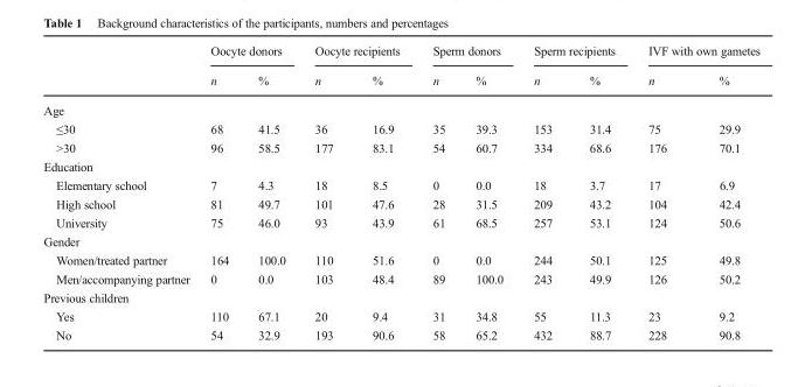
<table><thead><tr><td rowspan="2"></td><td colspan="2">Oocyte donors</td><td colspan="2">Oocyte recipients</td><td colspan="2">Sperm donors</td><td colspan="2">Sperm recipients</td><td colspan="2">IVF with own gametes</td></tr><tr><td>n</td><td>%</td><td>n</td><td>%</td><td>n</td><td>%</td><td>n</td><td>%</td><td>n</td><td>%</td></tr></thead><tbody><tr><td colspan="11">Age</td></tr><tr><td>≤30</td><td>68</td><td>41.5</td><td>36</td><td>16.9</td><td>35</td><td>39.3</td><td>153</td><td>31.4</td><td>75</td><td>29.9</td></tr><tr><td>&gt;30</td><td>96</td><td>58.5</td><td>177</td><td>83.1</td><td>54</td><td>60.7</td><td>334</td><td>68.6</td><td>176</td><td>70.1</td></tr><tr><td colspan="11">Education</td></tr><tr><td>Elementary school</td><td>7</td><td>4.3</td><td>18</td><td>8.5</td><td>0</td><td>0.0</td><td>18</td><td>3.7</td><td>17</td><td>6.9</td></tr><tr><td>High school</td><td>81</td><td>49.7</td><td>101</td><td>47.6</td><td>28</td><td>31.5</td><td>209</td><td>43.2</td><td>104</td><td>42.4</td></tr><tr><td>University</td><td>75</td><td>46.0</td><td>93</td><td>43.9</td><td>61</td><td>68.5</td><td>257</td><td>53.1</td><td>124</td><td>50.6</td></tr><tr><td colspan="11">Gender</td></tr><tr><td>Women/treated partner</td><td>164</td><td>100.0</td><td>110</td><td>51.6</td><td>0</td><td>0.0</td><td>244</td><td>50.1</td><td>125</td><td>49.8</td></tr><tr><td>Men/accompanying partner</td><td>0</td><td>0.0</td><td>103</td><td>48.4</td><td>89</td><td>100.0</td><td>243</td><td>49.9</td><td>126</td><td>50.2</td></tr><tr><td colspan="11">Previous children</td></tr><tr><td>Yes</td><td>110</td><td>67.1</td><td>20</td><td>9.4</td><td>31</td><td>34.8</td><td>55</td><td>11.3</td><td>23</td><td>9.2</td></tr><tr><td>No</td><td>54</td><td>32.9</td><td>193</td><td>90.6</td><td>58</td><td>65.2</td><td>432</td><td>88.7</td><td>228</td><td>90.8</td></tr></tbody></table>